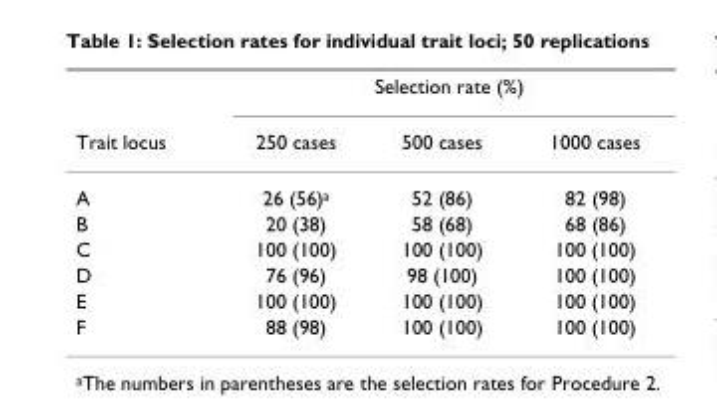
<table><thead><tr><td rowspan="2">Trait locus</td><td colspan="3">Selection rate (%)</td></tr><tr><td>250 cases</td><td>500 cases</td><td>1000 cases</td></tr></thead><tbody><tr><td>A</td><td>26 (56)<sup>a</sup></td><td>52 (86)</td><td>82 (98)</td></tr><tr><td>B</td><td>20 (38)</td><td>58 (68)</td><td>68 (86)</td></tr><tr><td>C</td><td>100 (100)</td><td>100 (100)</td><td>100 (100)</td></tr><tr><td>D</td><td>76 (96)</td><td>98 (100)</td><td>100 (100)</td></tr><tr><td>E</td><td>100 (100)</td><td>100 (100)</td><td>100 (100)</td></tr><tr><td>F</td><td>88 (98)</td><td>100 (100)</td><td>100 (100)</td></tr></tbody></table>